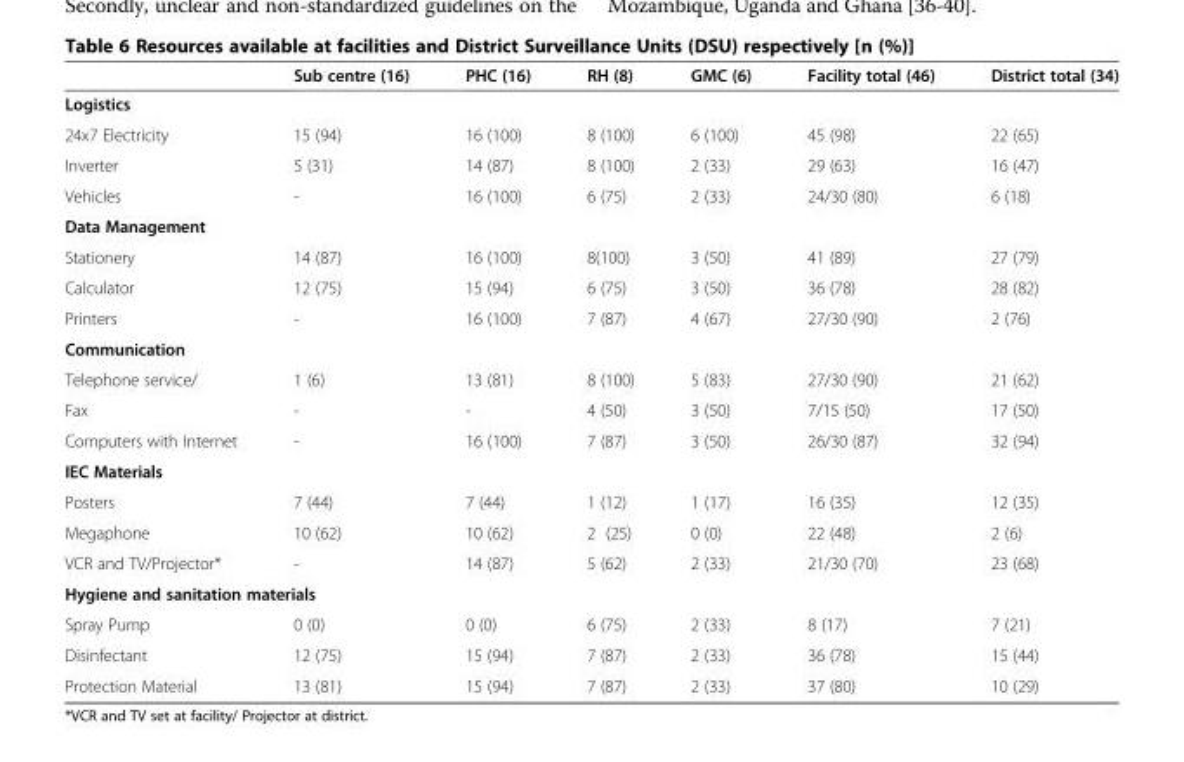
<table><thead><tr><td></td><td>Sub centre (16)</td><td>PHC (16)</td><td>RH (8)</td><td>GMC (6)</td><td>Facility total (46)</td><td>District total (34)</td></tr></thead><tbody><tr><td colspan="7">Logistics</td></tr><tr><td>24x7 Electricity</td><td>15 (94)</td><td>16 (100)</td><td>8 (100)</td><td>6 (100)</td><td>45 (98)</td><td>22 (65)</td></tr><tr><td>Inverter</td><td>5 (31)</td><td>14 (87)</td><td>8 (100)</td><td>2 (33)</td><td>29 (63)</td><td>16 (47)</td></tr><tr><td>Vehicles</td><td>-</td><td>16 (100)</td><td>6 (75)</td><td>2 (33)</td><td>24/30 (80)</td><td>6 (18)</td></tr><tr><td colspan="7">Data Management</td></tr><tr><td>Stationery</td><td>14 (87)</td><td>16 (100)</td><td>8(100)</td><td>3 (50)</td><td>41 (89)</td><td>27 (79)</td></tr><tr><td>Calculator</td><td>12 (75)</td><td>15 (94)</td><td>6 (75)</td><td>3 (50)</td><td>36 (78)</td><td>28 (82)</td></tr><tr><td>Printers</td><td>-</td><td>16 (100)</td><td>7 (87)</td><td>4 (67)</td><td>27/30 (90)</td><td>2 (76)</td></tr><tr><td colspan="7">Communication</td></tr><tr><td>Telephone service/</td><td>1 (6)</td><td>13 (81)</td><td>8 (100)</td><td>5 (83)</td><td>27/30 (90)</td><td>21 (62)</td></tr><tr><td>Fax</td><td>-</td><td>-</td><td>4 (50)</td><td>3 (50)</td><td>7/15 (50)</td><td>17 (50)</td></tr><tr><td>Computers with Internet</td><td>-</td><td>16 (100)</td><td>7 (87)</td><td>3 (50)</td><td>26/30 (87)</td><td>32 (94)</td></tr><tr><td colspan="7">IEC Materials</td></tr><tr><td>Posters</td><td>7 (44)</td><td>7 (44)</td><td>1 (12)</td><td>1 (17)</td><td>16 (35)</td><td>12 (35)</td></tr><tr><td>Megaphone</td><td>10 (62)</td><td>10 (62)</td><td>2 (25)</td><td>0 (0)</td><td>22 (48)</td><td>2 (6)</td></tr><tr><td>VCR and TV/Projector*</td><td>-</td><td>14 (87)</td><td>5 (62)</td><td>2 (33)</td><td>21/30 (70)</td><td>23 (68)</td></tr><tr><td colspan="7">Hygiene and sanitation materials</td></tr><tr><td>Spray Pump</td><td>0 (0)</td><td>0 (0)</td><td>6 (75)</td><td>2 (33)</td><td>8 (17)</td><td>7 (21)</td></tr><tr><td>Disinfectant</td><td>12 (75)</td><td>15 (94)</td><td>7 (87)</td><td>2 (33)</td><td>36 (78)</td><td>15 (44)</td></tr><tr><td>Protection Material</td><td>13 (81)</td><td>15 (94)</td><td>7 (87)</td><td>2 (33)</td><td>37 (80)</td><td>10 (29)</td></tr></tbody></table>